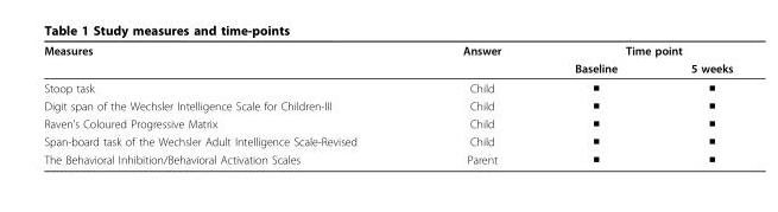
<table><thead><tr><td rowspan="2">Measures</td><td rowspan="2">Answer</td><td colspan="2">Time point</td></tr><tr><td>Baseline</td><td>5 weeks</td></tr></thead><tbody><tr><td>Stoop task</td><td>Child</td><td>■</td><td>■</td></tr><tr><td>Digit span of the Wechsler Intelligence Scale for Children-III</td><td>Child</td><td>■</td><td>■</td></tr><tr><td>Raven’s Coloured Progressive Matrix</td><td>Child</td><td>■</td><td>■</td></tr><tr><td>Span-board task of the Wechsler Adult Intelligence Scale-Revised</td><td>Child</td><td>■</td><td>■</td></tr><tr><td>The Behavioral Inhibition/Behavioral Activation Scales</td><td>Parent</td><td>■</td><td>■</td></tr></tbody></table>